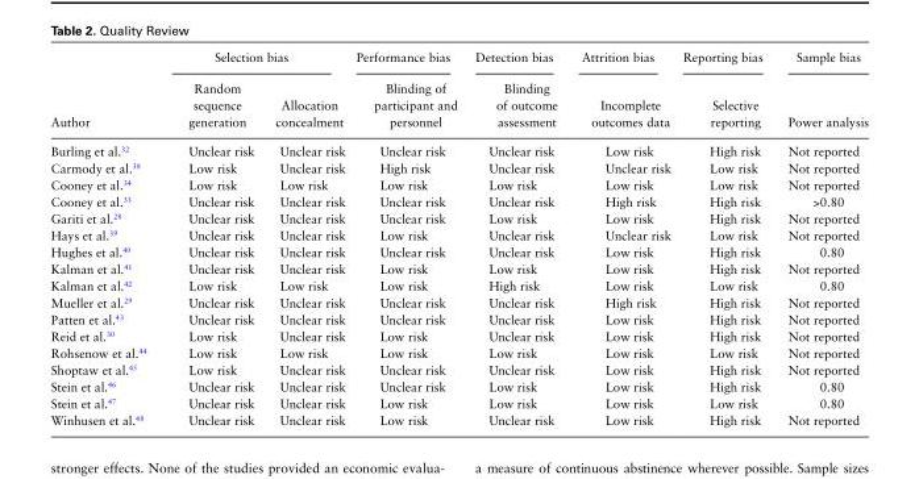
<table><thead><tr><td rowspan="2">Author</td><td colspan="2">Selection bias</td><td rowspan="2">Performance bias Blinding of participant and personnel</td><td rowspan="2">Detection bias Blinding of outcome assessment</td><td rowspan="2">Attrition bias Incomplete outcomes data</td><td rowspan="2">Reporting bias Selective reporting</td><td rowspan="2">Sample bias Power analysis</td></tr><tr><td>Random sequence generation</td><td>Allocation concealment</td></tr></thead><tbody><tr><td>Burling et al.<sup>32</sup></td><td>Unclear risk</td><td>Unclear risk</td><td>Unclear risk</td><td>Unclear risk</td><td>Low risk</td><td>High risk</td><td>Not reported</td></tr><tr><td>Carmody et al.<sup>38</sup></td><td>Low risk</td><td>Unclear risk</td><td>High risk</td><td>Unclear risk</td><td>Unclear risk</td><td>Low risk</td><td>Not reported</td></tr><tr><td>Cooney et al.<sup>34</sup></td><td>Low risk</td><td>Low risk</td><td>Low risk</td><td>Low risk</td><td>Low risk</td><td>Low risk</td><td>Not reported</td></tr><tr><td>Cooney et al.<sup>33</sup></td><td>Unclear risk</td><td>Unclear risk</td><td>Unclear risk</td><td>Unclear risk</td><td>High risk</td><td>High risk</td><td>&gt;0.80</td></tr><tr><td>Gariti et al.<sup>28</sup></td><td>Unclear risk</td><td>Unclear risk</td><td>Unclear risk</td><td>Low risk</td><td>Low risk</td><td>High risk</td><td>Not reported</td></tr><tr><td>Hays et al.<sup>39</sup></td><td>Unclear risk</td><td>Unclear risk</td><td>Low risk</td><td>Unclear risk</td><td>Unclear risk</td><td>Low risk</td><td>Not reported</td></tr><tr><td>Hughes et al.<sup>40</sup></td><td>Unclear risk</td><td>Unclear risk</td><td>Unclear risk</td><td>Unclear risk</td><td>Low risk</td><td>High risk</td><td>0.80</td></tr><tr><td>Kalman et al.<sup>41</sup></td><td>Unclear risk</td><td>Unclear risk</td><td>Low risk</td><td>Low risk</td><td>Low risk</td><td>High risk</td><td>Not reported</td></tr><tr><td>Kalman et al.<sup>42</sup></td><td>Low risk</td><td>Low risk</td><td>Low risk</td><td>High risk</td><td>Low risk</td><td>Low risk</td><td>0.80</td></tr><tr><td>Mueller et al.<sup>29</sup></td><td>Unclear risk</td><td>Unclear risk</td><td>Unclear risk</td><td>Unclear risk</td><td>High risk</td><td>High risk</td><td>Not reported</td></tr><tr><td>Patten et al.<sup>43</sup></td><td>Unclear risk</td><td>Unclear risk</td><td>Unclear risk</td><td>Unclear risk</td><td>Low risk</td><td>High risk</td><td>Not reported</td></tr><tr><td>Reid et al.<sup>30</sup></td><td>Low risk</td><td>Unclear risk</td><td>Low risk</td><td>Unclear risk</td><td>Low risk</td><td>High risk</td><td>Not reported</td></tr><tr><td>Rohsenow et al.<sup>44</sup></td><td>Low risk</td><td>Low risk</td><td>Low risk</td><td>Low risk</td><td>Low risk</td><td>Low risk</td><td>Not reported</td></tr><tr><td>Shoptaw et al.<sup>45</sup></td><td>Low risk</td><td>Unclear risk</td><td>Unclear risk</td><td>Unclear risk</td><td>Low risk</td><td>High risk</td><td>Not reported</td></tr><tr><td>Stein et al.<sup>46</sup></td><td>Unclear risk</td><td>Unclear risk</td><td>Unclear risk</td><td>Low risk</td><td>Low risk</td><td>High risk</td><td>0.80</td></tr><tr><td>Stein et al.<sup>47</sup></td><td>Unclear risk</td><td>Unclear risk</td><td>Low risk</td><td>Low risk</td><td>Low risk</td><td>Low risk</td><td>0.80</td></tr><tr><td>Winhusen et al.<sup>48</sup></td><td>Unclear risk</td><td>Unclear risk</td><td>Low risk</td><td>Unclear risk</td><td>Low risk</td><td>High risk</td><td>Not reported</td></tr></tbody></table>